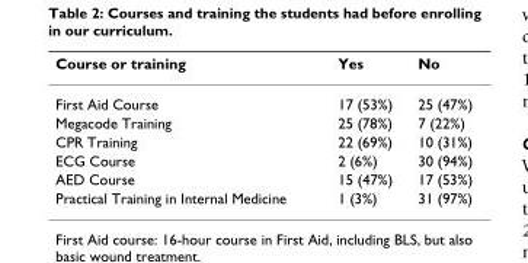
<table><thead><tr><td>Course or training</td><td>Yes</td><td>No</td></tr></thead><tbody><tr><td>First Aid Course</td><td>17 (53%)</td><td>25 (47%)</td></tr><tr><td>Megacode Training</td><td>25 (78%)</td><td>7 (22%)</td></tr><tr><td>CPR Training</td><td>22 (69%)</td><td>10 (31%)</td></tr><tr><td>ECG Course</td><td>2 (6%)</td><td>30 (94%)</td></tr><tr><td>AED Course</td><td>15 (47%)</td><td>17 (53%)</td></tr><tr><td>Practical Training in Internal Medicine</td><td>1 (3%)</td><td>31 (97%)</td></tr></tbody></table>